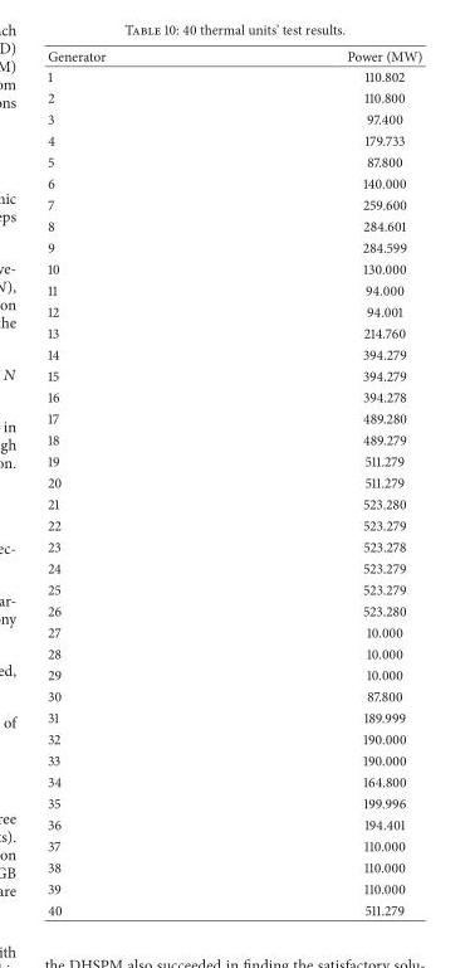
<table><thead><tr><td>Generator</td><td>Power (MW)</td></tr></thead><tbody><tr><td>1</td><td>110.802</td></tr><tr><td>2</td><td>110.800</td></tr><tr><td>3</td><td>97.400</td></tr><tr><td>4</td><td>179.733</td></tr><tr><td>5</td><td>87.800</td></tr><tr><td>6</td><td>140.000</td></tr><tr><td>7</td><td>259.600</td></tr><tr><td>8</td><td>284.601</td></tr><tr><td>9</td><td>284.599</td></tr><tr><td>10</td><td>130.000</td></tr><tr><td>11</td><td>94.000</td></tr><tr><td>12</td><td>94.001</td></tr><tr><td>13</td><td>214.760</td></tr><tr><td>14</td><td>394.279</td></tr><tr><td>15</td><td>394.279</td></tr><tr><td>16</td><td>394.278</td></tr><tr><td>17</td><td>489.280</td></tr><tr><td>18</td><td>489.279</td></tr><tr><td>19</td><td>511.279</td></tr><tr><td>20</td><td>511.279</td></tr><tr><td>21</td><td>523.280</td></tr><tr><td>22</td><td>523.279</td></tr><tr><td>23</td><td>523.278</td></tr><tr><td>24</td><td>523.279</td></tr><tr><td>25</td><td>523.279</td></tr><tr><td>26</td><td>523.280</td></tr><tr><td>27</td><td>10.000</td></tr><tr><td>28</td><td>10.000</td></tr><tr><td>29</td><td>10.000</td></tr><tr><td>30</td><td>87.800</td></tr><tr><td>31</td><td>189.999</td></tr><tr><td>32</td><td>190.000</td></tr><tr><td>33</td><td>190.000</td></tr><tr><td>34</td><td>164.800</td></tr><tr><td>35</td><td>199.996</td></tr><tr><td>36</td><td>194.401</td></tr><tr><td>37</td><td>110.000</td></tr><tr><td>38</td><td>110.000</td></tr><tr><td>39</td><td>110.000</td></tr><tr><td>40</td><td>511.279</td></tr></tbody></table>